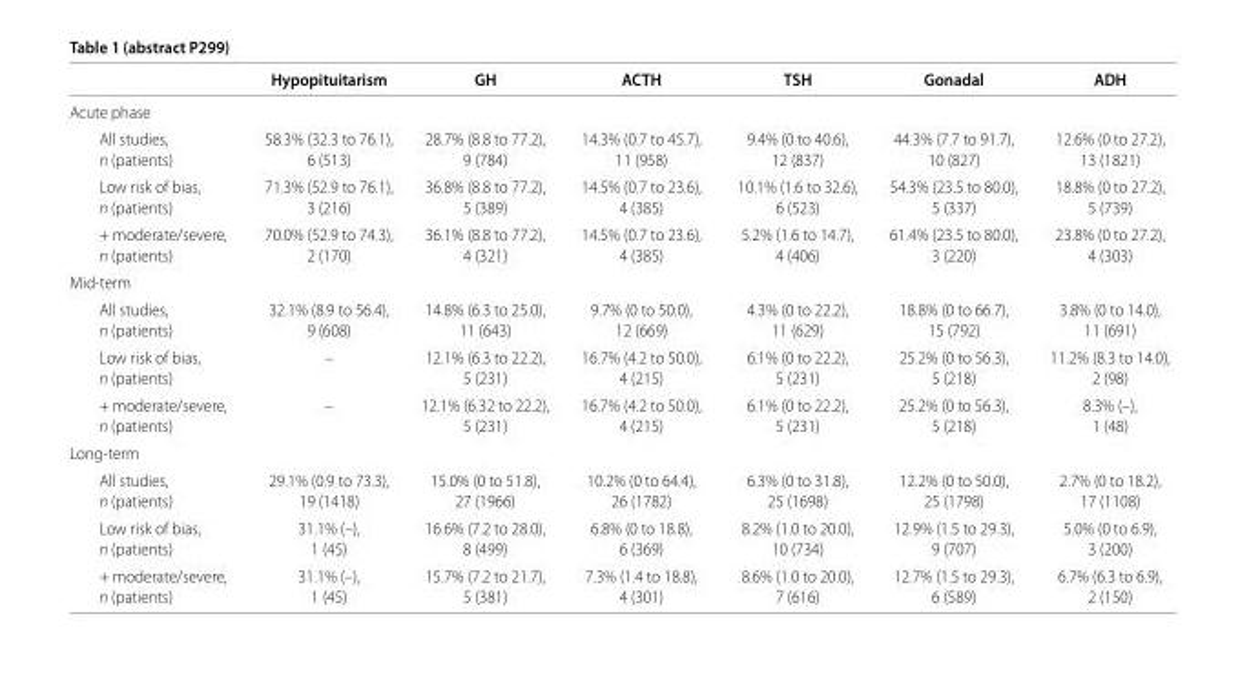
<table><thead><tr><td></td><td>Hypopituitarism</td><td>GH</td><td>ACTH</td><td>TSH</td><td>Gonadal</td><td>ADH</td></tr></thead><tbody><tr><td colspan="7">Acute phase</td></tr><tr><td>All studies,</td><td>58.3% (32.3 to 76.1),</td><td>28.7% (8.8 to 77.2),</td><td>14.3% (0.7 to 45.7),</td><td>9.4% (0 to 40.6),</td><td>44.3% (7.7 to 91.7),</td><td>12.6% (0 to 27.2),</td></tr><tr><td>n (patients)</td><td>6 (513)</td><td>9 (784)</td><td>11 (958)</td><td>12 (837)</td><td>10 (827)</td><td>13 (1821)</td></tr><tr><td>Low risk of bias,</td><td>71.3% (52.9 to 76.1),</td><td>36.8% (8.8 to 77.2),</td><td>14.5% (0.7 to 23.6),</td><td>10.1% (1.6 to 32.6),</td><td>54.3% (23.5 to 80.0),</td><td>18.8% (0 to 27.2),</td></tr><tr><td>n (patients)</td><td>3 (216)</td><td>5 (389)</td><td>4 (385)</td><td>6 (523)</td><td>5 (337)</td><td>5 (739)</td></tr><tr><td>+ moderate/severe,</td><td>70.0% (52.9 to 74.3),</td><td>36.1% (8.8 to 77.2),</td><td>14.5% (0.7 to 23.6),</td><td>5.2% (1.6 to 14.7),</td><td>61.4% (23.5 to 80.0),</td><td>23.8% (0 to 27.2),</td></tr><tr><td>n (patients)</td><td>2 (170)</td><td>4 (321)</td><td>4 (385)</td><td>4 (406)</td><td>3 (220)</td><td>4 (303)</td></tr><tr><td colspan="7">Mid-term</td></tr><tr><td>All studies,</td><td>32.1% (8.9 to 56.4),</td><td>14.8% (6.3 to 25.0),</td><td>9.7% (0 to 50.0),</td><td>4.3% (0 to 22.2),</td><td>18.8% (0 to 66.7),</td><td>3.8% (0 to 14.0),</td></tr><tr><td>n (patients)</td><td>9 (608)</td><td>11 (643)</td><td>12 (669)</td><td>11 (629)</td><td>15 (792)</td><td>11 (691)</td></tr><tr><td>Low risk of bias,</td><td>–</td><td>12.1% (6.3 to 22.2),</td><td>16.7% (4.2 to 50.0),</td><td>6.1% (0 to 22.2),</td><td>25.2% (0 to 56.3),</td><td>11.2% (8.3 to 14.0),</td></tr><tr><td>n (patients)</td><td></td><td>5 (231)</td><td>4 (215)</td><td>5 (231)</td><td>5 (218)</td><td>2 (98)</td></tr><tr><td>+ moderate/severe,</td><td>–</td><td>12.1% (6.32 to 22.2),</td><td>16.7% (4.2 to 50.0),</td><td>6.1% (0 to 22.2),</td><td>25.2% (0 to 56.3),</td><td>8.3% (–),</td></tr><tr><td>n (patients)</td><td></td><td>5 (231)</td><td>4 (215)</td><td>5 (231)</td><td>5 (218)</td><td>1 (48)</td></tr><tr><td colspan="7">Long-term</td></tr><tr><td>All studies,</td><td>29.1% (0.9 to 73.3),</td><td>15.0% (0 to 51.8),</td><td>10.2% (0 to 64.4),</td><td>6.3% (0 to 31.8),</td><td>12.2% (0 to 50.0),</td><td>2.7% (0 to 18.2),</td></tr><tr><td>n (patients)</td><td>19 (1418)</td><td>27 (1966)</td><td>26 (1782)</td><td>25 (1698)</td><td>25 (1798)</td><td>17 (1108)</td></tr><tr><td>Low risk of bias,</td><td>31.1% (–),</td><td>16.6% (7.2 to 28.0),</td><td>6.8% (0 to 18.8),</td><td>8.2% (1.0 to 20.0),</td><td>12.9% (1.5 to 29.3),</td><td>5.0% (0 to 6.9),</td></tr><tr><td>n (patients)</td><td>1 (45)</td><td>8 (499)</td><td>6 (369)</td><td>10 (734)</td><td>9 (707)</td><td>3 (200)</td></tr><tr><td>+ moderate/severe,</td><td>31.1% (–),</td><td>15.7% (7.2 to 21.7),</td><td>7.3% (1.4 to 18.8),</td><td>8.6% (1.0 to 20.0),</td><td>12.7% (1.5 to 29.3),</td><td>6.7% (6.3 to 6.9),</td></tr><tr><td>n (patients)</td><td>1 (45)</td><td>5 (381)</td><td>4 (301)</td><td>7 (616)</td><td>6 (589)</td><td>2 (150)</td></tr></tbody></table>